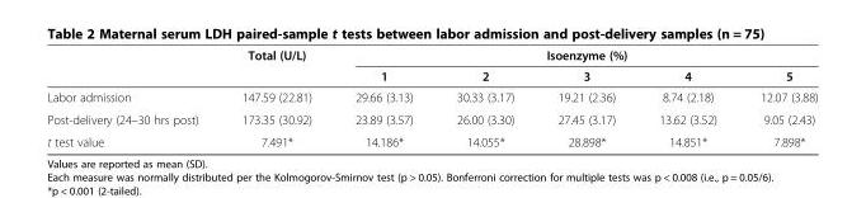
<table><thead><tr><td rowspan="2"></td><td rowspan="2">Total (U/L)</td><td colspan="5">Isoenzyme (%)</td></tr><tr><td>1</td><td>2</td><td>3</td><td>4</td><td>5</td></tr></thead><tbody><tr><td>Labor admission</td><td>147.59 (22.81)</td><td>29.66 (3.13)</td><td>30.33 (3.17)</td><td>19.21 (2.36)</td><td>8.74 (2.18)</td><td>12.07 (3.88)</td></tr><tr><td>Post-delivery (24–30 hrs post)</td><td>173.35 (30.92)</td><td>23.89 (3.57)</td><td>26.00 (3.30)</td><td>27.45 (3.17)</td><td>13.62 (3.52)</td><td>9.05 (2.43)</td></tr><tr><td>t test value</td><td>7.491*</td><td>14.186*</td><td>14.055*</td><td>28.898*</td><td>14.851*</td><td>7.898*</td></tr></tbody></table>